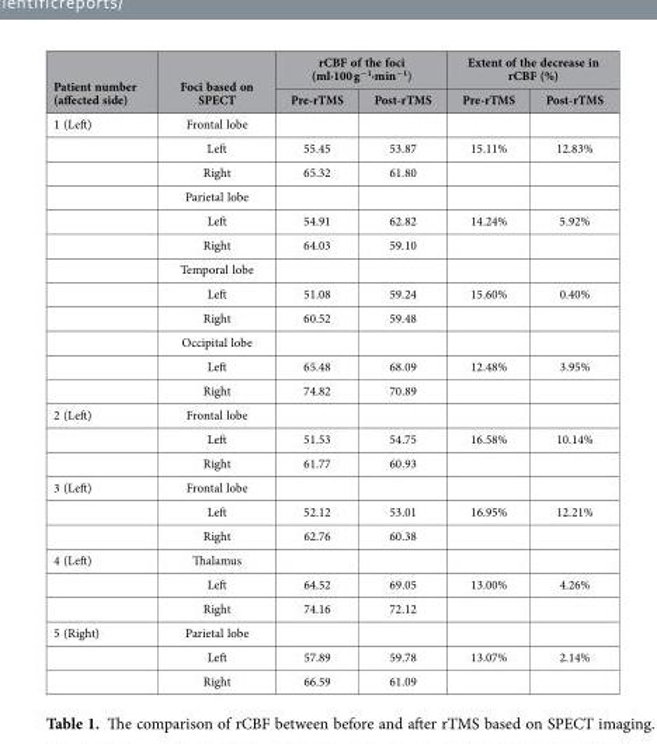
<table><thead><tr><td rowspan="2">Patient number (affected side)</td><td rowspan="2">Foci based on SPECT</td><td colspan="2">rCBF of the foci (ml·100 g<sup>−1</sup>·min<sup>−1</sup>)</td><td colspan="2">Extent of the decrease in rCBF (%)</td></tr><tr><td>Pre-rTMS</td><td>Post-rTMS</td><td>Pre-rTMS</td><td>Post-rTMS</td></tr></thead><tbody><tr><td rowspan="12">1 (Left)</td><td>Frontal lobe</td><td></td><td></td><td></td><td></td></tr><tr><td>Left</td><td>55.45</td><td>53.87</td><td>15.11%</td><td>12.83%</td></tr><tr><td>Right</td><td>65.32</td><td>61.80</td><td></td><td></td></tr><tr><td>Parietal lobe</td><td></td><td></td><td></td><td></td></tr><tr><td>Left</td><td>54.91</td><td>62.82</td><td>14.24%</td><td>5.92%</td></tr><tr><td>Right</td><td>64.03</td><td>59.10</td><td></td><td></td></tr><tr><td>Temporal lobe</td><td></td><td></td><td></td><td></td></tr><tr><td>Left</td><td>51.08</td><td>59.24</td><td>15.60%</td><td>0.40%</td></tr><tr><td>Right</td><td>60.52</td><td>59.48</td><td></td><td></td></tr><tr><td>Occipital lobe</td><td></td><td></td><td></td><td></td></tr><tr><td>Left</td><td>65.48</td><td>68.09</td><td>12.48%</td><td>3.95%</td></tr><tr><td>Right</td><td>74.82</td><td>70.89</td><td></td><td></td></tr><tr><td rowspan="3">2 (Left)</td><td>Frontal lobe</td><td></td><td></td><td></td><td></td></tr><tr><td>Left</td><td>51.53</td><td>54.75</td><td>16.58%</td><td>10.14%</td></tr><tr><td>Right</td><td>61.77</td><td>60.93</td><td></td><td></td></tr><tr><td rowspan="3">3 (Left)</td><td>Frontal lobe</td><td></td><td></td><td></td><td></td></tr><tr><td>Left</td><td>52.12</td><td>53.01</td><td>16.95%</td><td>12.21%</td></tr><tr><td>Right</td><td>62.76</td><td>60.38</td><td></td><td></td></tr><tr><td rowspan="3">4 (Left)</td><td>Thalamus</td><td></td><td></td><td></td><td></td></tr><tr><td>Left</td><td>64.52</td><td>69.05</td><td>13.00%</td><td>4.26%</td></tr><tr><td>Right</td><td>74.16</td><td>72.12</td><td></td><td></td></tr><tr><td rowspan="3">5 (Right)</td><td>Parietal lobe</td><td></td><td></td><td></td><td></td></tr><tr><td>Left</td><td>57.89</td><td>59.78</td><td>13.07%</td><td>2.14%</td></tr><tr><td>Right</td><td>66.59</td><td>61.09</td><td></td><td></td></tr></tbody></table>